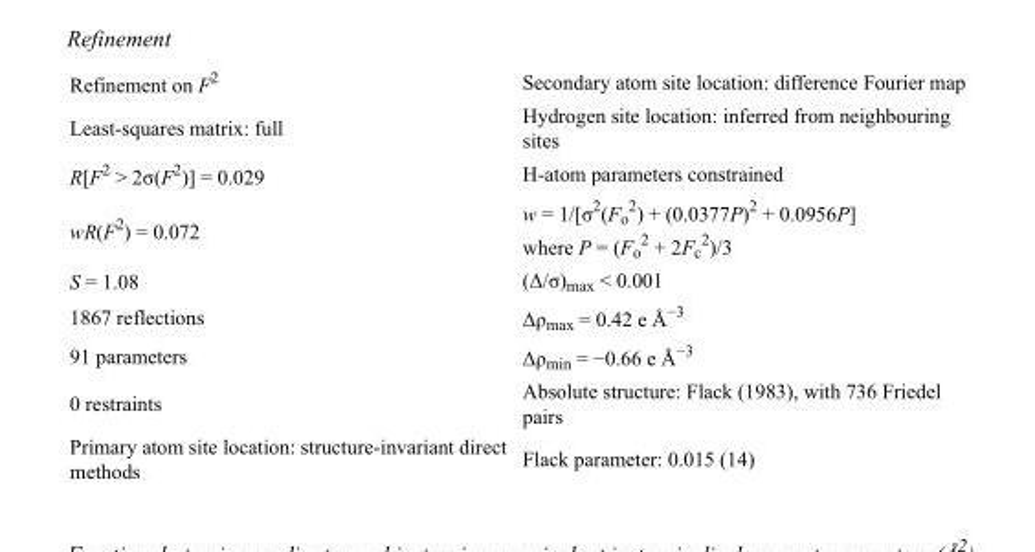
<table><tbody><tr><td>Refinement on F<sup>2</sup></td><td>Secondary atom site location: difference Fourier map</td></tr><tr><td>Least-squares matrix: full</td><td>Hydrogen site location: inferred from neighbouring sites</td></tr><tr><td>R[F<sup>2</sup> &gt; 2σ(F<sup>2</sup>)] = 0.029</td><td>H-atom parameters constrained</td></tr><tr><td>wR(F<sup>2</sup>) = 0.072</td><td>w = 1/[σ<sup>2</sup>(F<sub>o</sub> <sup>2</sup>) + (0.0377P)<sup>2</sup> + 0.0956P] where P = (F<sub>o</sub> <sup>2</sup> + 2F<sub>c</sub> <sup>2</sup>)/3</td></tr><tr><td>S = 1.08</td><td>(Δ/σ)<sub>max</sub> &lt; 0.001</td></tr><tr><td>1867 reflections</td><td>Δρ<sub>max</sub> = 0.42 e Å<sup>−3</sup></td></tr><tr><td>91 parameters</td><td>Δρ<sub>min</sub> = −0.66 e Å<sup>−3</sup></td></tr><tr><td>0 restraints</td><td>Absolute structure: Flack (1983), with 736 Friedel pairs</td></tr><tr><td>Primary atom site location: structure-invariant direct methods</td><td>Flack parameter: 0.015 (14)</td></tr></tbody></table>